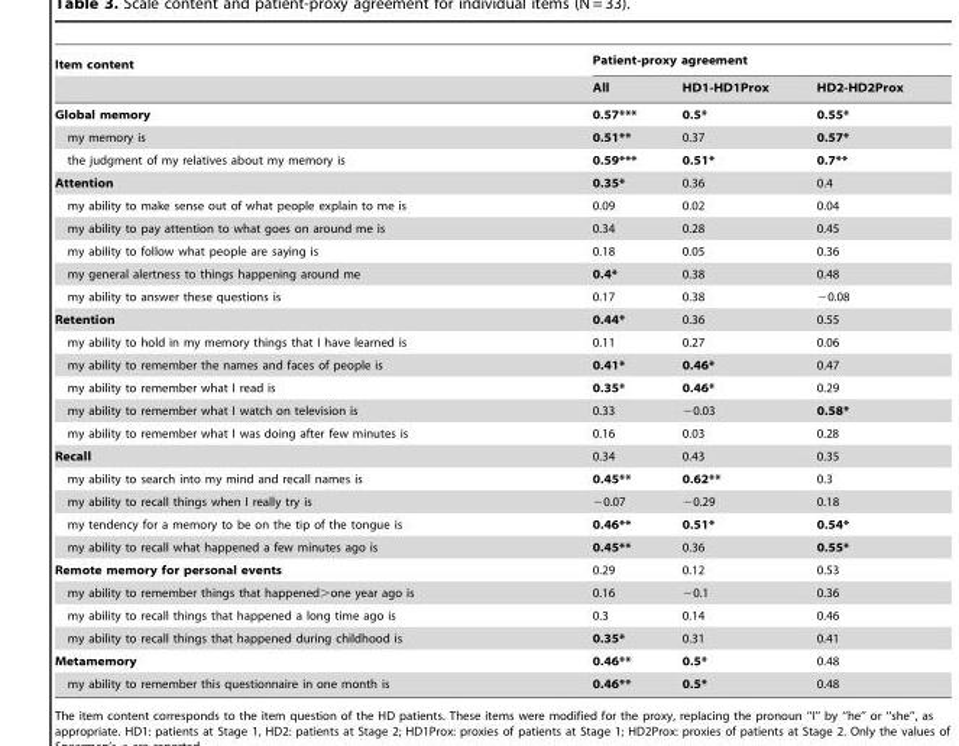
<table><thead><tr><td rowspan="2">Item content</td><td colspan="3">Patient-proxy agreement</td></tr><tr><td>All</td><td>HD1-HD1Prox</td><td>HD2-HD2Prox</td></tr></thead><tbody><tr><td>Global memory</td><td>0.57***</td><td>0.5*</td><td>0.55*</td></tr><tr><td>my memory is</td><td>0.51**</td><td>0.37</td><td>0.57*</td></tr><tr><td>the judgment of my relatives about my memory is</td><td>0.59***</td><td>0.51*</td><td>0.7**</td></tr><tr><td>Attention</td><td>0.35*</td><td>0.36</td><td>0.4</td></tr><tr><td>my ability to make sense out of what people explain to me is</td><td>0.09</td><td>0.02</td><td>0.04</td></tr><tr><td>my ability to pay attention to what goes on around me is</td><td>0.34</td><td>0.28</td><td>0.45</td></tr><tr><td>my ability to follow what people are saying is</td><td>0.18</td><td>0.05</td><td>0.36</td></tr><tr><td>my general alertness to things happening around me</td><td>0.4*</td><td>0.38</td><td>0.48</td></tr><tr><td>my ability to answer these questions is</td><td>0.17</td><td>0.38</td><td>−0.08</td></tr><tr><td>Retention</td><td>0.44*</td><td>0.36</td><td>0.55</td></tr><tr><td>my ability to hold in my memory things that I have learned is</td><td>0.11</td><td>0.27</td><td>0.06</td></tr><tr><td>my ability to remember the names and faces of people is</td><td>0.41*</td><td>0.46*</td><td>0.47</td></tr><tr><td>my ability to remember what I read is</td><td>0.35*</td><td>0.46*</td><td>0.29</td></tr><tr><td>my ability to remember what I watch on television is</td><td>0.33</td><td>−0.03</td><td>0.58*</td></tr><tr><td>my ability to remember what I was doing after few minutes is</td><td>0.16</td><td>0.03</td><td>0.28</td></tr><tr><td>Recall</td><td>0.34</td><td>0.43</td><td>0.35</td></tr><tr><td>my ability to search into my mind and recall names is</td><td>0.45**</td><td>0.62**</td><td>0.3</td></tr><tr><td>my ability to recall things when I really try is</td><td>−0.07</td><td>−0.29</td><td>0.18</td></tr><tr><td>my tendency for a memory to be on the tip of the tongue is</td><td>0.46**</td><td>0.51*</td><td>0.54*</td></tr><tr><td>my ability to recall what happened a few minutes ago is</td><td>0.45**</td><td>0.36</td><td>0.55*</td></tr><tr><td>Remote memory for personal events</td><td>0.29</td><td>0.12</td><td>0.53</td></tr><tr><td>my ability to remember things that happened&gt;one year ago is</td><td>0.16</td><td>−0.1</td><td>0.36</td></tr><tr><td>my ability to recall things that happened a long time ago is</td><td>0.3</td><td>0.14</td><td>0.46</td></tr><tr><td>my ability to recall things that happened during childhood is</td><td>0.35*</td><td>0.31</td><td>0.41</td></tr><tr><td>Metamemory</td><td>0.46**</td><td>0.5*</td><td>0.48</td></tr><tr><td>my ability to remember this questionnaire in one month is</td><td>0.46**</td><td>0.5*</td><td>0.48</td></tr></tbody></table>